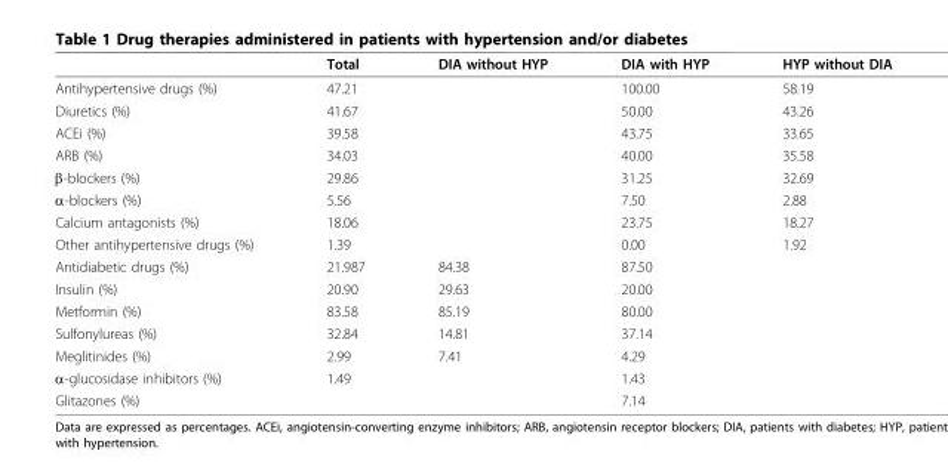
<table><thead><tr><td></td><td>Total</td><td>DIA without HYP</td><td>DIA with HYP</td><td>HYP without DIA</td></tr></thead><tbody><tr><td>Antihypertensive drugs (%)</td><td>47.21</td><td></td><td>100.00</td><td>58.19</td></tr><tr><td>Diuretics (%)</td><td>41.67</td><td></td><td>50.00</td><td>43.26</td></tr><tr><td>ACEi (%)</td><td>39.58</td><td></td><td>43.75</td><td>33.65</td></tr><tr><td>ARB (%)</td><td>34.03</td><td></td><td>40.00</td><td>35.58</td></tr><tr><td>β-blockers (%)</td><td>29.86</td><td></td><td>31.25</td><td>32.69</td></tr><tr><td>α-blockers (%)</td><td>5.56</td><td></td><td>7.50</td><td>2.88</td></tr><tr><td>Calcium antagonists (%)</td><td>18.06</td><td></td><td>23.75</td><td>18.27</td></tr><tr><td>Other antihypertensive drugs (%)</td><td>1.39</td><td></td><td>0.00</td><td>1.92</td></tr><tr><td>Antidiabetic drugs (%)</td><td>21.987</td><td>84.38</td><td>87.50</td><td></td></tr><tr><td>Insulin (%)</td><td>20.90</td><td>29.63</td><td>20.00</td><td></td></tr><tr><td>Metformin (%)</td><td>83.58</td><td>85.19</td><td>80.00</td><td></td></tr><tr><td>Sulfonylureas (%)</td><td>32.84</td><td>14.81</td><td>37.14</td><td></td></tr><tr><td>Meglitinides (%)</td><td>2.99</td><td>7.41</td><td>4.29</td><td></td></tr><tr><td>α-glucosidase inhibitors (%)</td><td>1.49</td><td></td><td>1.43</td><td></td></tr><tr><td>Glitazones (%)</td><td></td><td></td><td>7.14</td><td></td></tr></tbody></table>